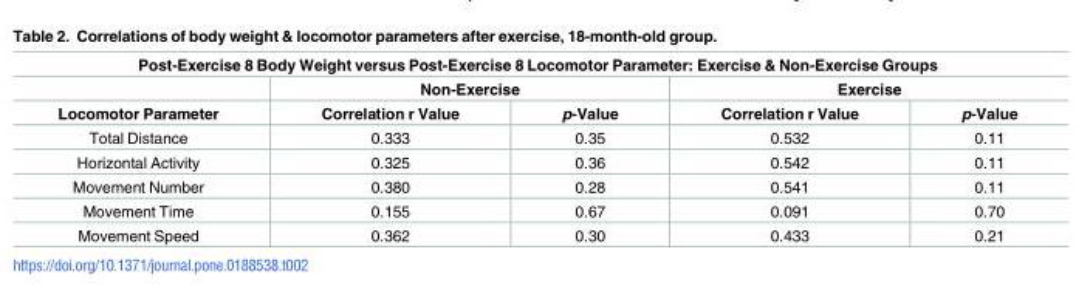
<table><thead><tr><td colspan="5">Post-Exercise 8 Body Weight versus Post-Exercise 8 Locomotor Parameter: Exercise &amp; Non-Exercise Groups</td></tr><tr><td rowspan="2">Locomotor Parameter</td><td colspan="2">Non-Exercise</td><td colspan="2">Exercise</td></tr><tr><td>Correlation r Value</td><td>p-Value</td><td>Correlation r Value</td><td>p-Value</td></tr></thead><tbody><tr><td>Total Distance</td><td>0.333</td><td>0.35</td><td>0.532</td><td>0.11</td></tr><tr><td>Horizontal Activity</td><td>0.325</td><td>0.36</td><td>0.542</td><td>0.11</td></tr><tr><td>Movement Number</td><td>0.380</td><td>0.28</td><td>0.541</td><td>0.11</td></tr><tr><td>Movement Time</td><td>0.155</td><td>0.67</td><td>0.091</td><td>0.70</td></tr><tr><td>Movement Speed</td><td>0.362</td><td>0.30</td><td>0.433</td><td>0.21</td></tr></tbody></table>